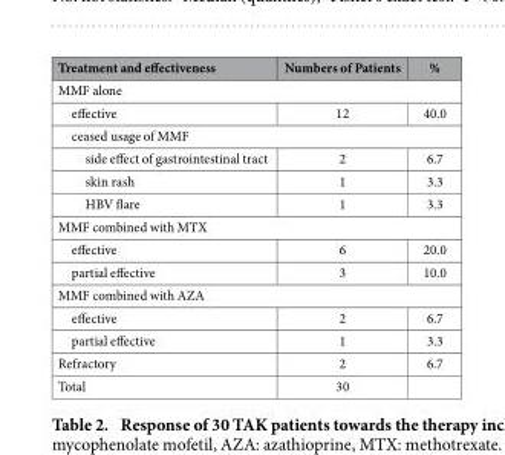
<table><thead><tr><td>Treatment and effectiveness</td><td>Numbers of Patients</td><td>%</td></tr></thead><tbody><tr><td colspan="3">MMF alone</td></tr><tr><td>effective</td><td>12</td><td>40.0</td></tr><tr><td colspan="3">ceased usage of MMF</td></tr><tr><td>side effect of gastrointestinal tract</td><td>2</td><td>6.7</td></tr><tr><td>skin rash</td><td>1</td><td>3.3</td></tr><tr><td>HBV flare</td><td>1</td><td>3.3</td></tr><tr><td colspan="3">MMF combined with MTX</td></tr><tr><td>effective</td><td>6</td><td>20.0</td></tr><tr><td>partial effective</td><td>3</td><td>10.0</td></tr><tr><td colspan="3">MMF combined with AZA</td></tr><tr><td>effective</td><td>2</td><td>6.7</td></tr><tr><td>partial effective</td><td>1</td><td>3.3</td></tr><tr><td>Refractory</td><td>2</td><td>6.7</td></tr><tr><td>Total</td><td>30</td><td></td></tr></tbody></table>